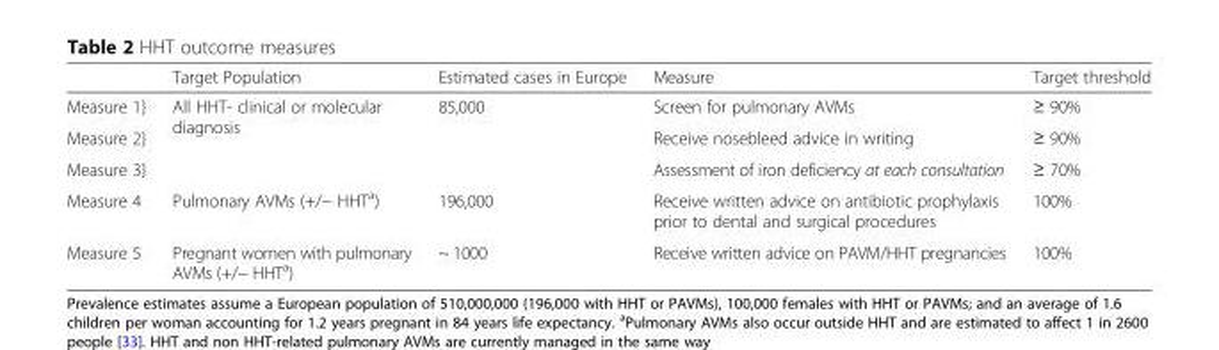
<table><thead><tr><td></td><td>Target Population</td><td>Estimated cases in Europe</td><td>Measure</td><td>Target threshold</td></tr></thead><tbody><tr><td>Measure 1}</td><td rowspan="3">All HHT- clinical or molecular diagnosis</td><td rowspan="3">85,000</td><td>Screen for pulmonary AVMs</td><td>≥ 90%</td></tr><tr><td>Measure 2}</td><td>Receive nosebleed advice in writing</td><td>≥ 90%</td></tr><tr><td>Measure 3}</td><td>Assessment of iron deficiency at each consultation</td><td>≥ 70%</td></tr><tr><td>Measure 4</td><td>Pulmonary AVMs (+/− HHT<sup>a</sup>)</td><td>196,000</td><td>Receive written advice on antibiotic prophylaxis prior to dental and surgical procedures</td><td>100%</td></tr><tr><td>Measure 5</td><td>Pregnant women with pulmonary AVMs (+/− HHT<sup>a</sup>)</td><td>~ 1000</td><td>Receive written advice on PAVM/HHT pregnancies</td><td>100%</td></tr></tbody></table>